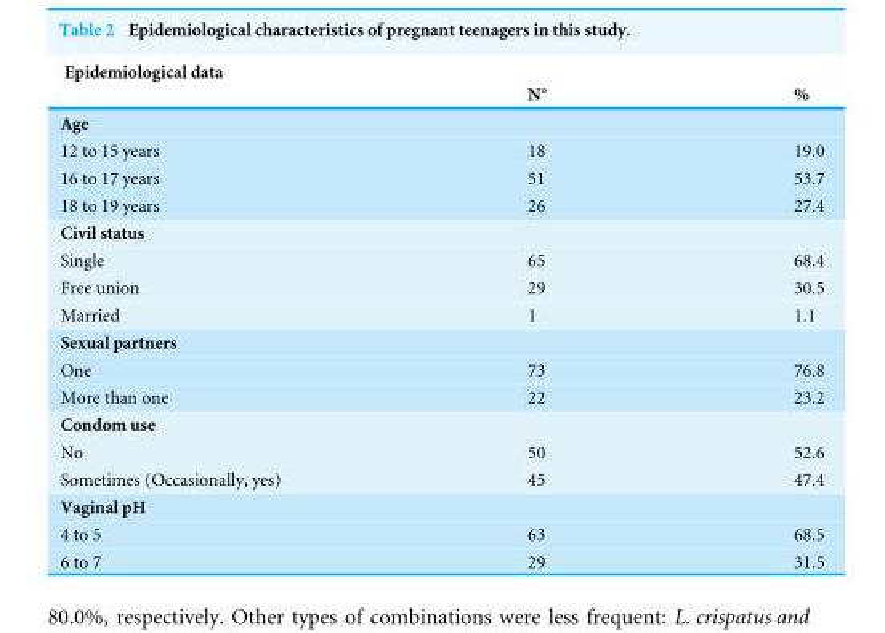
<table><thead><tr><td rowspan="2">Epidemiological data</td><td rowspan="2">N◦</td><td rowspan="2">%</td></tr><tr></tr></thead><tbody><tr><td colspan="3">Age</td></tr><tr><td>12 to 15 years</td><td>18</td><td>19.0</td></tr><tr><td>16 to 17 years</td><td>51</td><td>53.7</td></tr><tr><td>18 to 19 years</td><td>26</td><td>27.4</td></tr><tr><td colspan="3">Civil status</td></tr><tr><td>Single</td><td>65</td><td>68.4</td></tr><tr><td>Free union</td><td>29</td><td>30.5</td></tr><tr><td>Married</td><td>1</td><td>1.1</td></tr><tr><td colspan="3">Sexual partners</td></tr><tr><td>One</td><td>73</td><td>76.8</td></tr><tr><td>More than one</td><td>22</td><td>23.2</td></tr><tr><td colspan="3">Condom use</td></tr><tr><td>No</td><td>50</td><td>52.6</td></tr><tr><td>Sometimes (Occasionally, yes)</td><td>45</td><td>47.4</td></tr><tr><td colspan="3">Vaginal pH</td></tr><tr><td>4 to 5</td><td>63</td><td>68.5</td></tr><tr><td>6 to 7</td><td>29</td><td>31.5</td></tr></tbody></table>